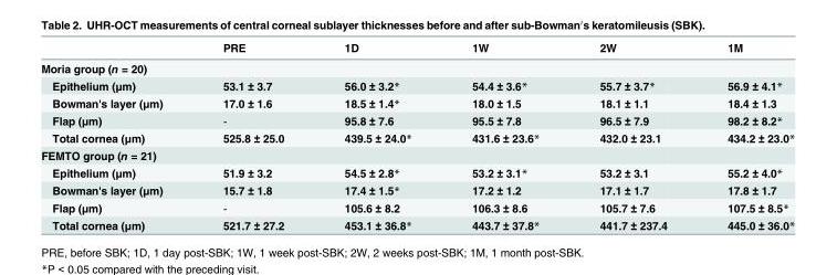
<table><thead><tr><td></td><td>PRE</td><td>1D</td><td>1W</td><td>2W</td><td>1M</td></tr></thead><tbody><tr><td colspan="6">Moria group (n = 20)</td></tr><tr><td>Epithelium (μm)</td><td>53.1 ± 3.7</td><td>56.0 ± 3.2*</td><td>54.4 ± 3.6*</td><td>55.7 ± 3.7*</td><td>56.9 ± 4.1*</td></tr><tr><td>Bowman&#x27;s layer (μm)</td><td>17.0 ± 1.6</td><td>18.5 ± 1.4*</td><td>18.0 ± 1.5</td><td>18.1 ± 1.1</td><td>18.4 ± 1.3</td></tr><tr><td>Flap (μm)</td><td>-</td><td>95.8 ± 7.6</td><td>95.5 ± 7.8</td><td>96.5 ± 7.9</td><td>98.2 ± 8.2*</td></tr><tr><td>Total cornea (μm)</td><td>525.8 ± 25.0</td><td>439.5 ± 24.0*</td><td>431.6 ± 23.6*</td><td>432.0 ± 23.1</td><td>434.2 ± 23.0*</td></tr><tr><td colspan="6">FEMTO group (n = 21)</td></tr><tr><td>Epithelium (μm)</td><td>51.9 ± 3.2</td><td>54.5 ± 2.8*</td><td>53.2 ± 3.1*</td><td>53.2 ± 3.1</td><td>55.2 ± 4.0*</td></tr><tr><td>Bowman&#x27;s layer (μm)</td><td>15.7 ± 1.8</td><td>17.4 ± 1.5*</td><td>17.2 ± 1.2</td><td>17.1 ± 1.7</td><td>17.8 ± 1.7</td></tr><tr><td>Flap (μm)</td><td>-</td><td>105.6 ± 8.2</td><td>106.3 ± 8.6</td><td>105.7 ± 7.6</td><td>107.5 ± 8.5*</td></tr><tr><td>Total cornea (μm)</td><td>521.7 ± 27.2</td><td>453.1 ± 36.8*</td><td>443.7 ± 37.8*</td><td>441.7 ± 237.4</td><td>445.0 ± 36.0*</td></tr></tbody></table>